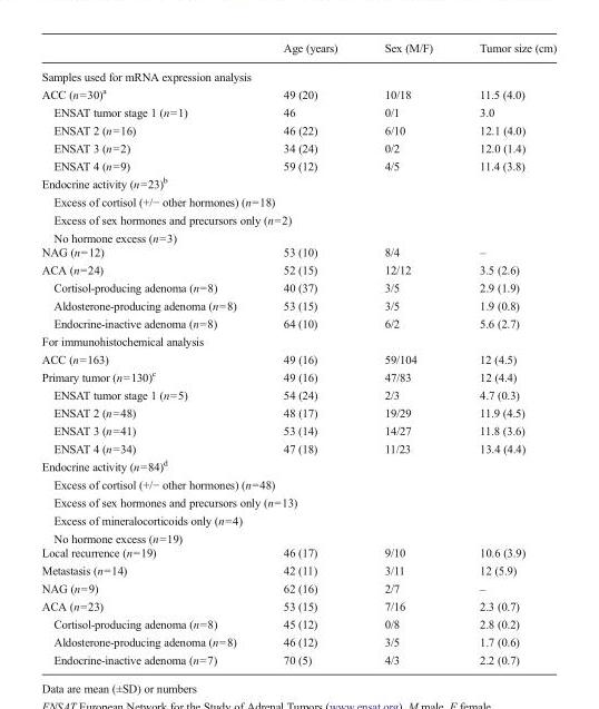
<table><thead><tr><td></td><td>Age (years)</td><td>Sex (M/F)</td><td>Tumor size (cm)</td></tr></thead><tbody><tr><td colspan="4">Samples used for mRNA expression analysis</td></tr><tr><td>ACC (n=30)<sup>a</sup></td><td>49 (20)</td><td>10/18</td><td>11.5 (4.0)</td></tr><tr><td>ENSAT tumor stage 1 (n=1)</td><td>46</td><td>0/1</td><td>3.0</td></tr><tr><td>ENSAT 2 (n=16)</td><td>46 (22)</td><td>6/10</td><td>12.1 (4.0)</td></tr><tr><td>ENSAT 3 (n=2)</td><td>34 (24)</td><td>0/2</td><td>12.0 (1.4)</td></tr><tr><td>ENSAT 4 (n=9)</td><td>59 (12)</td><td>4/5</td><td>11.4 (3.8)</td></tr><tr><td colspan="4">Endocrine activity (n=23)<sup>b</sup> Excess of cortisol (+/− other hormones) (n=18) Excess of sex hormones and precursors only (n=2) No hormone excess (n=3)</td></tr><tr><td>NAG (n=12)</td><td>53 (10)</td><td>8/4</td><td>–</td></tr><tr><td>ACA (n=24)</td><td>52 (15)</td><td>12/12</td><td>3.5 (2.6)</td></tr><tr><td>Cortisol-producing adenoma (n=8)</td><td>40 (37)</td><td>3/5</td><td>2.9 (1.9)</td></tr><tr><td>Aldosterone-producing adenoma (n=8)</td><td>53 (15)</td><td>3/5</td><td>1.9 (0.8)</td></tr><tr><td>Endocrine-inactive adenoma (n=8)</td><td>64 (10)</td><td>6/2</td><td>5.6 (2.7)</td></tr><tr><td colspan="4">For immunohistochemical analysis</td></tr><tr><td>ACC (n=163)</td><td>49 (16)</td><td>59/104</td><td>12 (4.5)</td></tr><tr><td>Primary tumor (n=130)<sup>c</sup></td><td>49 (16)</td><td>47/83</td><td>12 (4.4)</td></tr><tr><td>ENSAT tumor stage 1 (n=5)</td><td>54 (24)</td><td>2/3</td><td>4.7 (0.3)</td></tr><tr><td>ENSAT 2 (n=48)</td><td>48 (17)</td><td>19/29</td><td>11.9 (4.5)</td></tr><tr><td>ENSAT 3 (n=41)</td><td>53 (14)</td><td>14/27</td><td>11.8 (3.6)</td></tr><tr><td>ENSAT 4 (n=34)</td><td>47 (18)</td><td>11/23</td><td>13.4 (4.4)</td></tr><tr><td colspan="4">Endocrine activity (n=84)<sup>d</sup> Excess of cortisol (+/− other hormones) (n=48) Excess of sex hormones and precursors only (n=13) Excess of mineralocorticoids only (n=4) No hormone excess (n=19)</td></tr><tr><td>Local recurrence (n=19)</td><td>46 (17)</td><td>9/10</td><td>10.6 (3.9)</td></tr><tr><td>Metastasis (n=14)</td><td>42 (11)</td><td>3/11</td><td>12 (5.9)</td></tr><tr><td>NAG (n=9)</td><td>62 (16)</td><td>2/7</td><td>–</td></tr><tr><td>ACA (n=23)</td><td>53 (15)</td><td>7/16</td><td>2.3 (0.7)</td></tr><tr><td>Cortisol-producing adenoma (n=8)</td><td>45 (12)</td><td>0/8</td><td>2.8 (0.2)</td></tr><tr><td>Aldosterone-producing adenoma (n=8)</td><td>46 (12)</td><td>3/5</td><td>1.7 (0.6)</td></tr><tr><td>Endocrine-inactive adenoma (n=7)</td><td>70 (5)</td><td>4/3</td><td>2.2 (0.7)</td></tr></tbody></table>